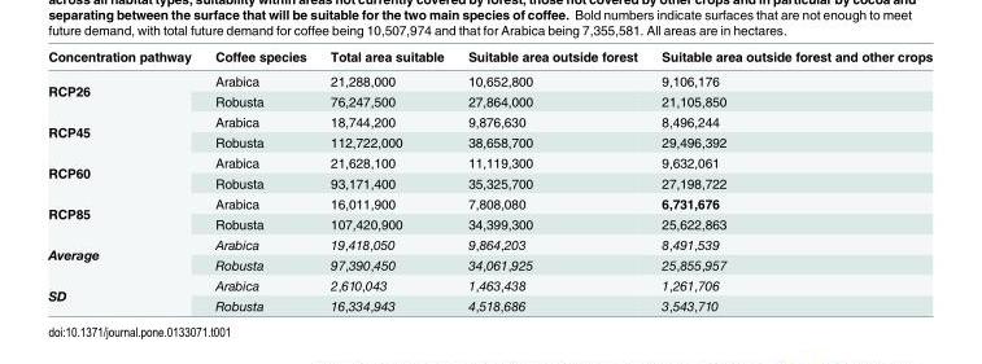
<table><thead><tr><td>Concentration pathway</td><td>Coffee species</td><td>Total area suitable</td><td>Suitable area outside forest</td><td>Suitable area outside forest and other crops</td></tr></thead><tbody><tr><td rowspan="2">RCP26</td><td>Arabica</td><td>21,288,000</td><td>10,652,800</td><td>9,106,176</td></tr><tr><td>Robusta</td><td>76,247,500</td><td>27,864,000</td><td>21,105,850</td></tr><tr><td rowspan="2">RCP45</td><td>Arabica</td><td>18,744,200</td><td>9,876,630</td><td>8,496,244</td></tr><tr><td>Robusta</td><td>112,722,000</td><td>38,658,700</td><td>29,496,392</td></tr><tr><td rowspan="2">RCP60</td><td>Arabica</td><td>21,628,100</td><td>11,119,300</td><td>9,632,061</td></tr><tr><td>Robusta</td><td>93,171,400</td><td>35,325,700</td><td>27,198,722</td></tr><tr><td rowspan="2">RCP85</td><td>Arabica</td><td>16,011,900</td><td>7,808,080</td><td>6,731,676</td></tr><tr><td>Robusta</td><td>107,420,900</td><td>34,399,300</td><td>25,622,863</td></tr><tr><td rowspan="2">Average</td><td>Arabica</td><td>19,418,050</td><td>9,864,203</td><td>8,491,539</td></tr><tr><td>Robusta</td><td>97,390,450</td><td>34,061,925</td><td>25,855,957</td></tr><tr><td rowspan="2">SD</td><td>Arabica</td><td>2,610,043</td><td>1,463,438</td><td>1,261,706</td></tr><tr><td>Robusta</td><td>16,334,943</td><td>4,518,686</td><td>3,543,710</td></tr></tbody></table>